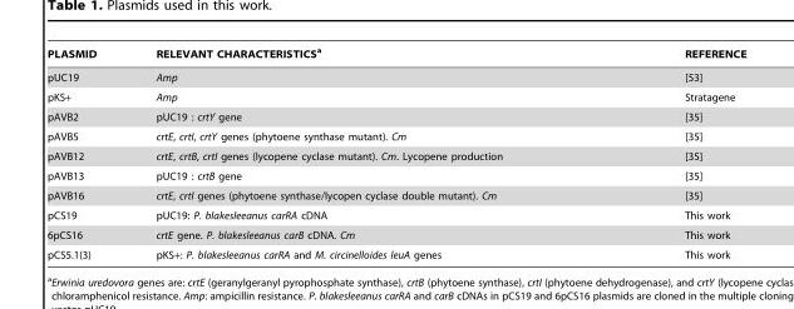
<table><thead><tr><td>PLASMID</td><td>RELEVANT CHARACTERISTICS<sup>a</sup></td><td>REFERENCE</td></tr></thead><tbody><tr><td>pUC19</td><td>Amp</td><td>[53]</td></tr><tr><td>pKS+</td><td>Amp</td><td>Stratagene</td></tr><tr><td>pAVB2</td><td>pUC19 : crtY gene</td><td>[35]</td></tr><tr><td>pAVB5</td><td>crtE, crtI, crtY genes (phytoene synthase mutant). Cm</td><td>[35]</td></tr><tr><td>pAVB12</td><td>crtE, crtB, crtI genes (lycopene cyclase mutant). Cm. Lycopene production</td><td>[35]</td></tr><tr><td>pAVB13</td><td>pUC19 : crtB gene</td><td>[35]</td></tr><tr><td>pAVB16</td><td>crtE, crtI genes (phytoene synthase/lycopen cyclase double mutant). Cm</td><td>[35]</td></tr><tr><td>pCS19</td><td>pUC19: P. blakesleeanus carRA cDNA</td><td>This work</td></tr><tr><td>6pCS16</td><td>crtE gene. P. blakesleeanus carB cDNA. Cm</td><td>This work</td></tr><tr><td>pCS5.1(3)</td><td>pKS+: P. blakesleeanus carRA and M. circinelloides leuA genes</td><td>This work</td></tr></tbody></table>